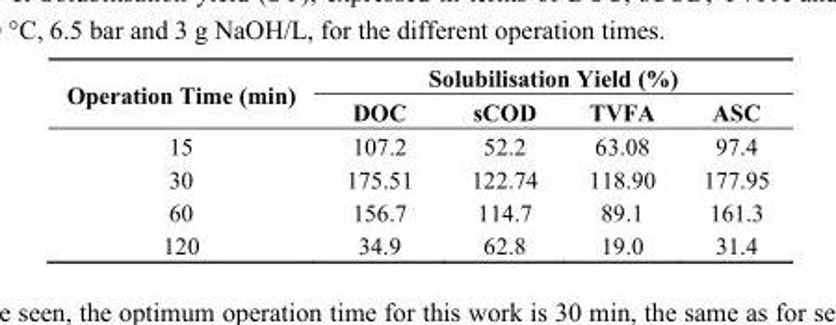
<table><thead><tr><td rowspan="2">Operation Time (min)</td><td colspan="4">Solubilisation Yield (%)</td></tr><tr><td>DOC</td><td>sCOD</td><td>TVFA</td><td>ASC</td></tr></thead><tbody><tr><td>15</td><td>107.2</td><td>52.2</td><td>63.08</td><td>97.4</td></tr><tr><td>30</td><td>175.51</td><td>122.74</td><td>118.90</td><td>177.95</td></tr><tr><td>60</td><td>156.7</td><td>114.7</td><td>89.1</td><td>161.3</td></tr><tr><td>120</td><td>34.9</td><td>62.8</td><td>19.0</td><td>31.4</td></tr></tbody></table>